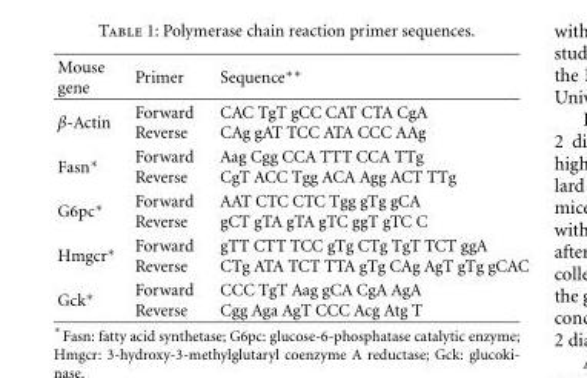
<table><thead><tr><td>Mouse gene</td><td>Primer</td><td>Sequence∗∗</td></tr></thead><tbody><tr><td>β-Actin</td><td>Forward Reverse</td><td>CAC TgT gCC CAT CTA CgA CAg gAT TCC ATA CCC AAg</td></tr><tr><td>Fasn∗</td><td>Forward Reverse</td><td>Aag Cgg CCA TTT CCA TTg CgT ACC Tgg ACA Agg ACT TTg</td></tr><tr><td>G6pc∗</td><td>Forward Reverse</td><td>AAT CTC CTC Tgg gTg gCA gCT gTA gTA gTC ggT gTC C</td></tr><tr><td>Hmgcr∗</td><td>Forward Reverse</td><td>gTT CTT TCC gTg CTg TgT TCT ggA CTg ATA TCT TTA gTg CAg AgT gTg gCAC</td></tr><tr><td>Gck∗</td><td>Forward Reverse</td><td>CCC TgT Aag gCA CgA AgA Cgg Aga AgT CCC Acg Atg T</td></tr></tbody></table>